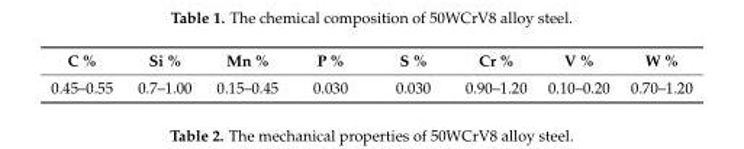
<table><thead><tr><td>C %</td><td>Si %</td><td>Mn %</td><td>P %</td><td>S %</td><td>Cr %</td><td>V %</td><td>W %</td></tr></thead><tbody><tr><td>0.45–0.55</td><td>0.7–1.00</td><td>0.15–0.45</td><td>0.030</td><td>0.030</td><td>0.90–1.20</td><td>0.10–0.20</td><td>0.70–1.20</td></tr></tbody></table>